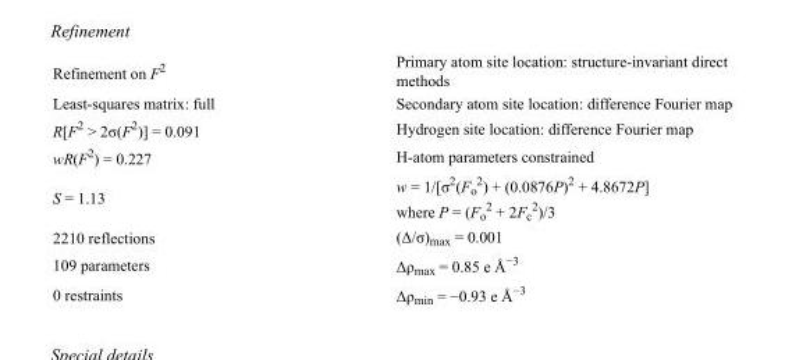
<table><tbody><tr><td>Refinement on F<sup>2</sup></td><td>Primary atom site location: structure-invariant direct methods</td></tr><tr><td>Least-squares matrix: full</td><td>Secondary atom site location: difference Fourier map</td></tr><tr><td>R[F<sup>2</sup> &gt; 2σ(F<sup>2</sup>)] = 0.091</td><td>Hydrogen site location: difference Fourier map</td></tr><tr><td>wR(F<sup>2</sup>) = 0.227</td><td>H-atom parameters constrained</td></tr><tr><td>S = 1.13</td><td>w = 1/[σ<sup>2</sup>(F<sub>o</sub> <sup>2</sup>) + (0.0876P)<sup>2</sup> + 4.8672P] where P = (F<sub>o</sub> <sup>2</sup> + 2F<sub>c</sub> <sup>2</sup>)/3</td></tr><tr><td>2210 reflections</td><td>(Δ/σ)<sub>max</sub> = 0.001</td></tr><tr><td>109 parameters</td><td>Δρ<sub>max</sub> = 0.85 e Å<sup>−3</sup></td></tr><tr><td>0 restraints</td><td>Δρ<sub>min</sub> = −0.93 e Å<sup>−3</sup></td></tr></tbody></table>